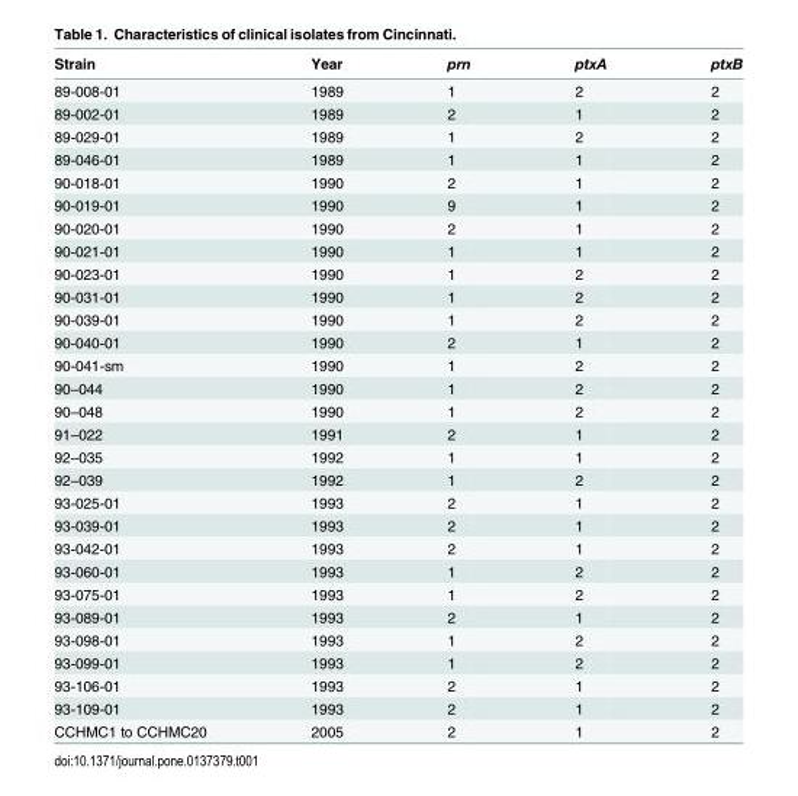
<table><thead><tr><td>Strain</td><td>Year</td><td>prn</td><td>ptxA</td><td>ptxB</td></tr></thead><tbody><tr><td>89-008-01</td><td>1989</td><td>1</td><td>2</td><td>2</td></tr><tr><td>89-002-01</td><td>1989</td><td>2</td><td>1</td><td>2</td></tr><tr><td>89-029-01</td><td>1989</td><td>1</td><td>2</td><td>2</td></tr><tr><td>89-046-01</td><td>1989</td><td>1</td><td>1</td><td>2</td></tr><tr><td>90-018-01</td><td>1990</td><td>2</td><td>1</td><td>2</td></tr><tr><td>90-019-01</td><td>1990</td><td>9</td><td>1</td><td>2</td></tr><tr><td>90-020-01</td><td>1990</td><td>2</td><td>1</td><td>2</td></tr><tr><td>90-021-01</td><td>1990</td><td>1</td><td>1</td><td>2</td></tr><tr><td>90-023-01</td><td>1990</td><td>1</td><td>2</td><td>2</td></tr><tr><td>90-031-01</td><td>1990</td><td>1</td><td>2</td><td>2</td></tr><tr><td>90-039-01</td><td>1990</td><td>1</td><td>2</td><td>2</td></tr><tr><td>90-040-01</td><td>1990</td><td>2</td><td>1</td><td>2</td></tr><tr><td>90-041-sm</td><td>1990</td><td>1</td><td>2</td><td>2</td></tr><tr><td>90–044</td><td>1990</td><td>1</td><td>2</td><td>2</td></tr><tr><td>90–048</td><td>1990</td><td>1</td><td>2</td><td>2</td></tr><tr><td>91–022</td><td>1991</td><td>2</td><td>1</td><td>2</td></tr><tr><td>92–035</td><td>1992</td><td>1</td><td>1</td><td>2</td></tr><tr><td>92–039</td><td>1992</td><td>1</td><td>2</td><td>2</td></tr><tr><td>93-025-01</td><td>1993</td><td>2</td><td>1</td><td>2</td></tr><tr><td>93-039-01</td><td>1993</td><td>2</td><td>1</td><td>2</td></tr><tr><td>93-042-01</td><td>1993</td><td>2</td><td>1</td><td>2</td></tr><tr><td>93-060-01</td><td>1993</td><td>1</td><td>2</td><td>2</td></tr><tr><td>93-075-01</td><td>1993</td><td>1</td><td>2</td><td>2</td></tr><tr><td>93-089-01</td><td>1993</td><td>2</td><td>1</td><td>2</td></tr><tr><td>93-098-01</td><td>1993</td><td>1</td><td>2</td><td>2</td></tr><tr><td>93-099-01</td><td>1993</td><td>1</td><td>2</td><td>2</td></tr><tr><td>93-106-01</td><td>1993</td><td>2</td><td>1</td><td>2</td></tr><tr><td>93-109-01</td><td>1993</td><td>2</td><td>1</td><td>2</td></tr><tr><td>CCHMC1 to CCHMC20</td><td>2005</td><td>2</td><td>1</td><td>2</td></tr></tbody></table>